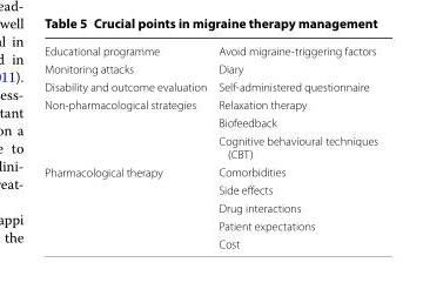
<table><tbody><tr><td>Educational programme</td><td>Avoid migraine-triggering factors</td></tr><tr><td>Monitoring attacks</td><td>Diary</td></tr><tr><td>Disability and outcome evaluation</td><td>Self-administered questionnaire</td></tr><tr><td rowspan="3">Non-pharmacological strategies</td><td>Relaxation therapy</td></tr><tr><td>Biofeedback</td></tr><tr><td>Cognitive behavioural techniques (CBT)</td></tr><tr><td rowspan="5">Pharmacological therapy</td><td>Comorbidities</td></tr><tr><td>Side effects</td></tr><tr><td>Drug interactions</td></tr><tr><td>Patient expectations</td></tr><tr><td>Cost</td></tr></tbody></table>